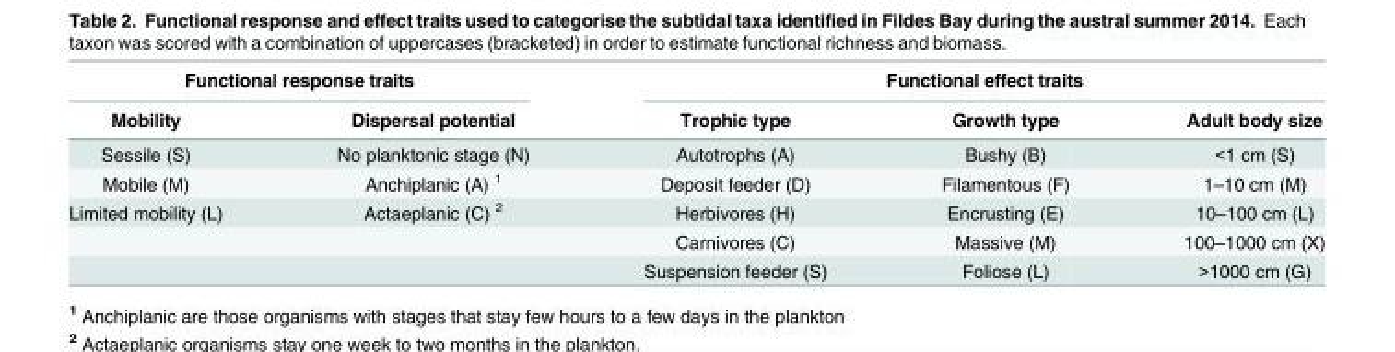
<table><thead><tr><td colspan="2">Functional response traits</td><td colspan="3">Functional effect traits</td></tr><tr><td>Mobility</td><td>Dispersal potential</td><td>Trophic type</td><td>Growth type</td><td>Adult body size</td></tr></thead><tbody><tr><td>Sessile (S)</td><td>No planktonic stage (N)</td><td>Autotrophs (A)</td><td>Bushy (B)</td><td>&lt;1 cm (S)</td></tr><tr><td>Mobile (M)</td><td>Anchiplanic (A) <sup>1</sup></td><td>Deposit feeder (D)</td><td>Filamentous (F)</td><td>1–10 cm (M)</td></tr><tr><td rowspan="3">Limited mobility (L)</td><td>Actaeplanic (C) <sup>2</sup></td><td>Herbivores (H)</td><td>Encrusting (E)</td><td>10–100 cm (L)</td></tr><tr><td></td><td>Carnivores (C)</td><td>Massive (M)</td><td>100–1000 cm (X)</td></tr><tr><td></td><td>Suspension feeder (S)</td><td>Foliose (L)</td><td>&gt;1000 cm (G)</td></tr></tbody></table>